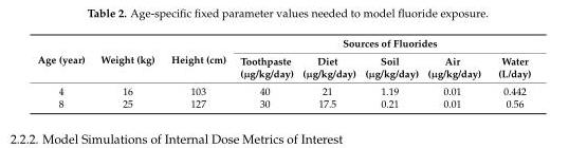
<table><thead><tr><td rowspan="2">Age (year)</td><td rowspan="2">Weight (kg)</td><td rowspan="2">Height (cm)</td><td colspan="5">Sources of Fluorides</td></tr><tr><td>Toothpaste (µg/kg/day)</td><td>Diet (µg/kg/day)</td><td>Soil (µg/kg/day)</td><td>Air (µg/kg/day)</td><td>Water (L/day)</td></tr></thead><tbody><tr><td>4</td><td>16</td><td>103</td><td>40</td><td>21</td><td>1.19</td><td>0.01</td><td>0.442</td></tr><tr><td>8</td><td>25</td><td>127</td><td>30</td><td>17.5</td><td>0.21</td><td>0.01</td><td>0.56</td></tr></tbody></table>